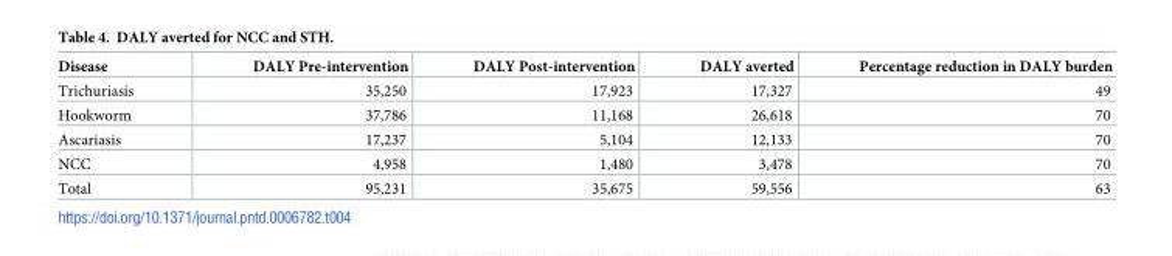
<table><thead><tr><td>Disease</td><td>DALY Pre-intervention</td><td>DALY Post-intervention</td><td>DALY averted</td><td>Percentage reduction in DALY burden</td></tr></thead><tbody><tr><td>Trichuriasis</td><td>35,250</td><td>17,923</td><td>17,327</td><td>49</td></tr><tr><td>Hookworm</td><td>37,786</td><td>11,168</td><td>26,618</td><td>70</td></tr><tr><td>Ascariasis</td><td>17,237</td><td>5,104</td><td>12,133</td><td>70</td></tr><tr><td>NCC</td><td>4,958</td><td>1,480</td><td>3,478</td><td>70</td></tr><tr><td>Total</td><td>95,231</td><td>35,675</td><td>59,556</td><td>63</td></tr></tbody></table>